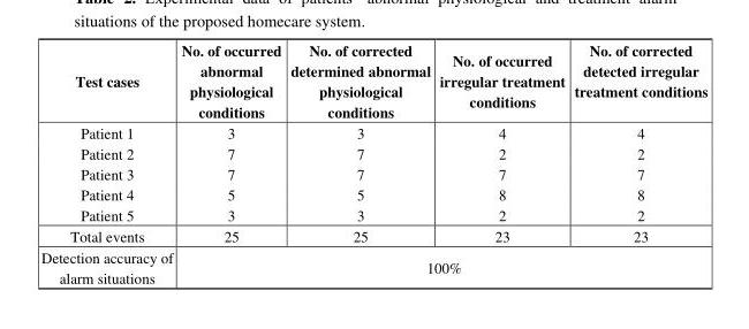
<table><thead><tr><td>Test cases</td><td>No. of occurred abnormal physiological conditions</td><td>No. of corrected determined abnormal physiological conditions</td><td>No. of occurred irregular treatment conditions</td><td>No. of corrected detected irregular treatment conditions</td></tr></thead><tbody><tr><td>Patient 1</td><td>3</td><td>3</td><td>4</td><td>4</td></tr><tr><td>Patient 2</td><td>7</td><td>7</td><td>2</td><td>2</td></tr><tr><td>Patient 3</td><td>7</td><td>7</td><td>7</td><td>7</td></tr><tr><td>Patient 4</td><td>5</td><td>5</td><td>8</td><td>8</td></tr><tr><td>Patient 5</td><td>3</td><td>3</td><td>2</td><td>2</td></tr><tr><td>Total events</td><td>25</td><td>25</td><td>23</td><td>23</td></tr><tr><td>Detection accuracy of alarm situations</td><td colspan="4">100%</td></tr></tbody></table>